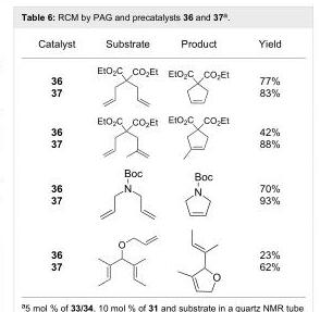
<table><tbody><tr><td>Catalyst</td><td>Substrate</td><td>Product</td><td>Yield</td></tr><tr><td>36 37</td><td></td><td></td><td>77% 83%</td></tr><tr><td>36 37</td><td></td><td></td><td>42% 88%</td></tr><tr><td>36 37</td><td></td><td></td><td>70% 93%</td></tr><tr><td>36 37</td><td></td><td></td><td>23% 62%</td></tr></tbody></table>